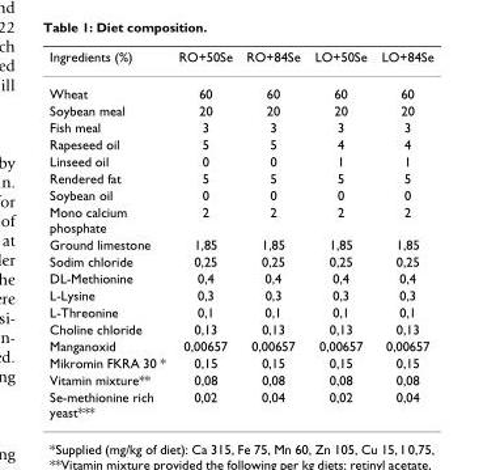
<table><thead><tr><td>Ingredients (%)</td><td>RO+50Se</td><td>RO+84Se</td><td>LO+50Se</td><td>LO+84Se</td></tr></thead><tbody><tr><td>Wheat</td><td>60</td><td>60</td><td>60</td><td>60</td></tr><tr><td>Soybean meal</td><td>20</td><td>20</td><td>20</td><td>20</td></tr><tr><td>Fish meal</td><td>3</td><td>3</td><td>3</td><td>3</td></tr><tr><td>Rapeseed oil</td><td>5</td><td>5</td><td>4</td><td>4</td></tr><tr><td>Linseed oil</td><td>0</td><td>0</td><td>1</td><td>1</td></tr><tr><td>Rendered fat</td><td>5</td><td>5</td><td>5</td><td>5</td></tr><tr><td>Soybean oil</td><td>0</td><td>0</td><td>0</td><td>0</td></tr><tr><td>Mono calcium phosphate</td><td>2</td><td>2</td><td>2</td><td>2</td></tr><tr><td>Ground limestone</td><td>1,85</td><td>1,85</td><td>1,85</td><td>1,85</td></tr><tr><td>Sodim chloride</td><td>0,25</td><td>0,25</td><td>0,25</td><td>0,25</td></tr><tr><td>DL-Methionine</td><td>0,4</td><td>0,4</td><td>0,4</td><td>0,4</td></tr><tr><td>L-Lysine</td><td>0,3</td><td>0,3</td><td>0,3</td><td>0,3</td></tr><tr><td>L-Threonine</td><td>0,1</td><td>0,1</td><td>0,1</td><td>0,1</td></tr><tr><td>Choline chloride</td><td>0,13</td><td>0,13</td><td>0,13</td><td>0,13</td></tr><tr><td>Manganoxid</td><td>0,00657</td><td>0,00657</td><td>0,00657</td><td>0,00657</td></tr><tr><td>Mikromin FKRA 30 *</td><td>0,15</td><td>0,15</td><td>0,15</td><td>0,15</td></tr><tr><td>Vitamin mixture**</td><td>0,08</td><td>0,08</td><td>0,08</td><td>0,08</td></tr><tr><td>Se-methionine rich yeast***</td><td>0,02</td><td>0,04</td><td>0,02</td><td>0,04</td></tr></tbody></table>